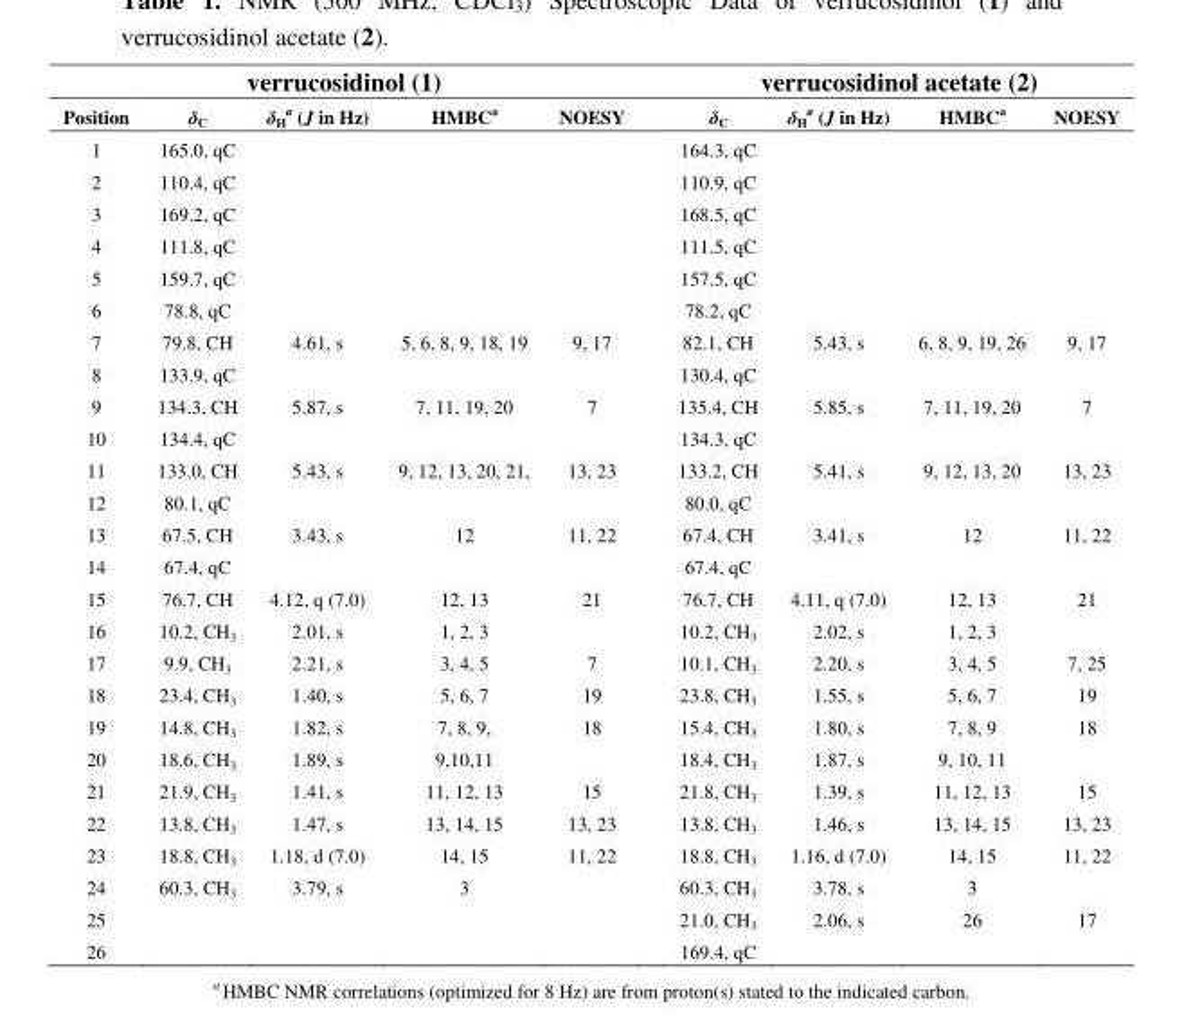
<table><thead><tr><td rowspan="2">Position</td><td colspan="4">verrucosidinol (1)</td><td colspan="4">verrucosidinol acetate (2)</td></tr><tr><td>δ<sub>C</sub></td><td>δ<sub>H</sub> <sup>a</sup> (J in Hz)</td><td>HMBC<sup>a</sup></td><td>NOESY</td><td>δ<sub>C</sub></td><td>δ<sub>H</sub> <sup>a</sup> (J in Hz)</td><td>HMBC<sup>a</sup></td><td>NOESY</td></tr></thead><tbody><tr><td>1</td><td>165.0, qC</td><td></td><td></td><td></td><td>164.3, qC</td><td></td><td></td><td></td></tr><tr><td>2</td><td>110.4, qC</td><td></td><td></td><td></td><td>110.9, qC</td><td></td><td></td><td></td></tr><tr><td>3</td><td>169.2, qC</td><td></td><td></td><td></td><td>168.5, qC</td><td></td><td></td><td></td></tr><tr><td>4</td><td>111.8, qC</td><td></td><td></td><td></td><td>111.5, qC</td><td></td><td></td><td></td></tr><tr><td>5</td><td>159.7, qC</td><td></td><td></td><td></td><td>157.5, qC</td><td></td><td></td><td></td></tr><tr><td>6</td><td>78.8, qC</td><td></td><td></td><td></td><td>78.2, qC</td><td></td><td></td><td></td></tr><tr><td>7</td><td>79.8, CH</td><td>4.61, s</td><td>5, 6, 8, 9, 18, 19</td><td>9, 17</td><td>82.1, CH</td><td>5.43, s</td><td>6, 8, 9, 19, 26</td><td>9, 17</td></tr><tr><td>8</td><td>133.9, qC</td><td></td><td></td><td></td><td>130.4, qC</td><td></td><td></td><td></td></tr><tr><td>9</td><td>134.3, CH</td><td>5.87, s</td><td>7, 11, 19, 20</td><td>7</td><td>135.4, CH</td><td>5.85, s</td><td>7, 11, 19, 20</td><td>7</td></tr><tr><td>10</td><td>134.4, qC</td><td></td><td></td><td></td><td>134.3, qC</td><td></td><td></td><td></td></tr><tr><td>11</td><td>133.0, CH</td><td>5.43, s</td><td>9, 12, 13, 20, 21,</td><td>13, 23</td><td>133.2, CH</td><td>5.41, s</td><td>9, 12, 13, 20</td><td>13, 23</td></tr><tr><td>12</td><td>80.1, qC</td><td></td><td></td><td></td><td>80.0, qC</td><td></td><td></td><td></td></tr><tr><td>13</td><td>67.5, CH</td><td>3.43, s</td><td>12</td><td>11, 22</td><td>67.4, CH</td><td>3.41, s</td><td>12</td><td>11, 22</td></tr><tr><td>14</td><td>67.4, qC</td><td></td><td></td><td></td><td>67.4, qC</td><td></td><td></td><td></td></tr><tr><td>15</td><td>76.7, CH</td><td>4.12, q (7.0)</td><td>12, 13</td><td>21</td><td>76.7, CH</td><td>4.11, q (7.0)</td><td>12, 13</td><td>21</td></tr><tr><td>16</td><td>10.2, CH<sub>3</sub></td><td>2.01, s</td><td>1, 2, 3</td><td></td><td>10.2, CH<sub>3</sub></td><td>2.02, s</td><td>1, 2, 3</td><td></td></tr><tr><td>17</td><td>9.9, CH<sub>3</sub></td><td>2.21, s</td><td>3, 4, 5</td><td>7</td><td>10.1, CH<sub>3</sub></td><td>2.20, s</td><td>3, 4, 5</td><td>7, 25</td></tr><tr><td>18</td><td>23.4, CH<sub>3</sub></td><td>1.40, s</td><td>5, 6, 7</td><td>19</td><td>23.8, CH<sub>3</sub></td><td>1.55, s</td><td>5, 6, 7</td><td>19</td></tr><tr><td>19</td><td>14.8, CH<sub>3</sub></td><td>1.82, s</td><td>7, 8, 9,</td><td>18</td><td>15.4, CH<sub>3</sub></td><td>1.80, s</td><td>7, 8, 9</td><td>18</td></tr><tr><td>20</td><td>18.6, CH<sub>3</sub></td><td>1.89, s</td><td>9,10,11</td><td></td><td>18.4, CH<sub>3</sub></td><td>1.87, s</td><td>9, 10, 11</td><td></td></tr><tr><td>21</td><td>21.9, CH<sub>3</sub></td><td>1.41, s</td><td>11, 12, 13</td><td>15</td><td>21.8, CH<sub>3</sub></td><td>1.39, s</td><td>11, 12, 13</td><td>15</td></tr><tr><td>22</td><td>13.8, CH<sub>3</sub></td><td>1.47, s</td><td>13, 14, 15</td><td>13, 23</td><td>13.8, CH<sub>3</sub></td><td>1.46, s</td><td>13, 14, 15</td><td>13, 23</td></tr><tr><td>23</td><td>18.8, CH<sub>3</sub></td><td>1.18, d (7.0)</td><td>14, 15</td><td>11, 22</td><td>18.8, CH<sub>3</sub></td><td>1.16, d (7.0)</td><td>14, 15</td><td>11, 22</td></tr><tr><td>24</td><td>60.3, CH<sub>3</sub></td><td>3.79, s</td><td>3</td><td></td><td>60.3, CH<sub>3</sub></td><td>3.78, s</td><td>3</td><td></td></tr><tr><td>25</td><td></td><td></td><td></td><td></td><td>21.0, CH<sub>3</sub></td><td>2.06, s</td><td>26</td><td>17</td></tr><tr><td>26</td><td></td><td></td><td></td><td></td><td>169.4, qC</td><td></td><td></td><td></td></tr></tbody></table>